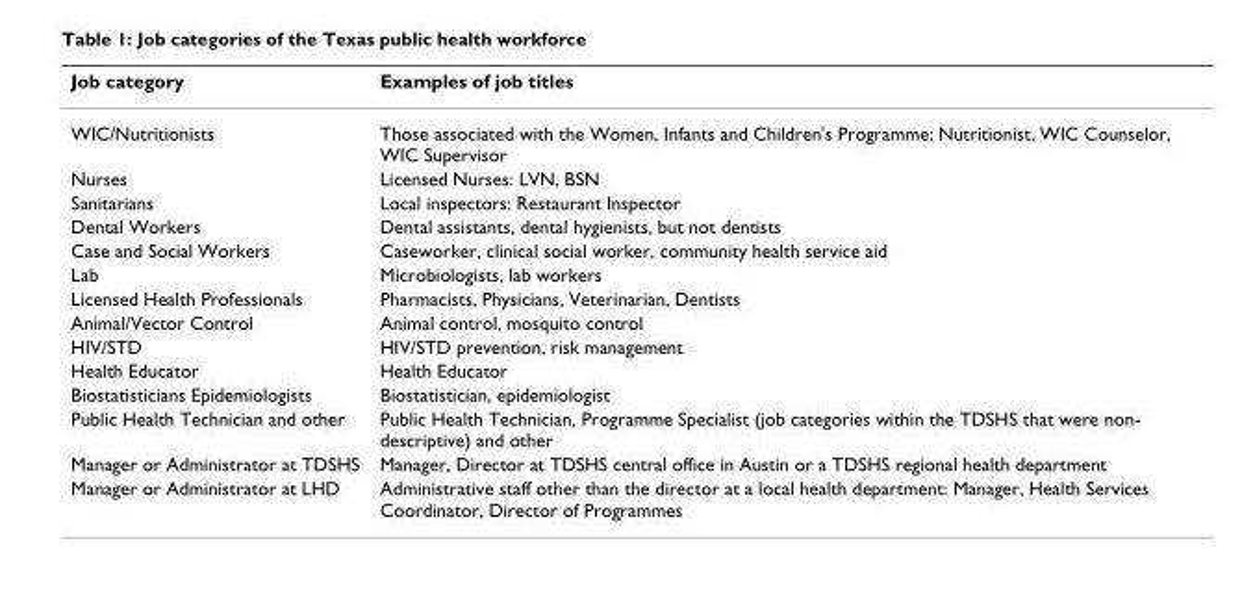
<table><thead><tr><td>Job category</td><td>Examples of job titles</td></tr></thead><tbody><tr><td>WIC/Nutritionists</td><td>Those associated with the Women, Infants and Children&#x27;s Programme: Nutritionist, WIC Counselor, WIC Supervisor</td></tr><tr><td>Nurses</td><td>Licensed Nurses: LVN, BSN</td></tr><tr><td>Sanitarians</td><td>Local inspectors: Restaurant Inspector</td></tr><tr><td>Dental Workers</td><td>Dental assistants, dental hygienists, but not dentists</td></tr><tr><td>Case and Social Workers</td><td>Caseworker, clinical social worker, community health service aid</td></tr><tr><td>Lab</td><td>Microbiologists, lab workers</td></tr><tr><td>Licensed Health Professionals</td><td>Pharmacists, Physicians, Veterinarian, Dentists</td></tr><tr><td>Animal/Vector Control</td><td>Animal control, mosquito control</td></tr><tr><td>HIV/STD</td><td>HIV/STD prevention, risk management</td></tr><tr><td>Health Educator</td><td>Health Educator</td></tr><tr><td>Biostatisticians Epidemiologists</td><td>Biostatistician, epidemiologist</td></tr><tr><td>Public Health Technician and other</td><td>Public Health Technician, Programme Specialist (job categories within the TDSHS that were non- descriptive) and other</td></tr><tr><td>Manager or Administrator at TDSHS</td><td>Manager, Director at TDSHS central office in Austin or a TDSHS regional health department</td></tr><tr><td>Manager or Administrator at LHD</td><td>Administrative staff other than the director at a local health department: Manager, Health Services Coordinator, Director of Programmes</td></tr></tbody></table>